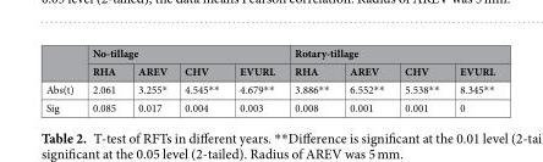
<table><thead><tr><td rowspan="2"></td><td colspan="4">No-tillage</td><td colspan="4">Rotary-tillage</td></tr><tr><td>RHA</td><td>AREV</td><td>CHV</td><td>EVURL</td><td>RHA</td><td>AREV</td><td>CHV</td><td>EVURL</td></tr></thead><tbody><tr><td>Abs(t)</td><td>2.061</td><td>3.255*</td><td>4.545**</td><td>4.679**</td><td>3.886**</td><td>6.552**</td><td>5.538**</td><td>8.345**</td></tr><tr><td>Sig</td><td>0.085</td><td>0.017</td><td>0.004</td><td>0.003</td><td>0.008</td><td>0.001</td><td>0.001</td><td>0</td></tr></tbody></table>